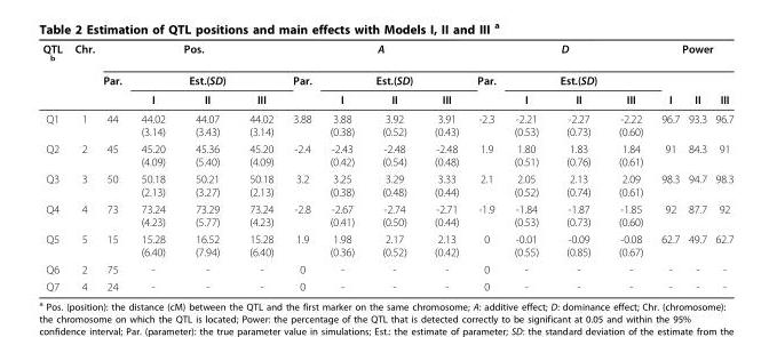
<table><thead><tr><td rowspan="3">QTL <sup>b</sup></td><td rowspan="3">Chr.</td><td colspan="4">Pos.</td><td colspan="4">A</td><td colspan="4">D</td><td colspan="3">Power</td></tr><tr><td rowspan="2">Par.</td><td colspan="3">Est.(SD)</td><td rowspan="2">Par.</td><td colspan="3">Est.(SD)</td><td rowspan="2">Par.</td><td colspan="3">Est.(SD)</td><td rowspan="2">I</td><td rowspan="2">II</td><td rowspan="2">III</td></tr><tr><td>I</td><td>II</td><td>III</td><td>I</td><td>II</td><td>III</td><td>I</td><td>II</td><td>III</td></tr></thead><tbody><tr><td>Q1</td><td>1</td><td>44</td><td>44.02 (3.14)</td><td>44.07 (3.43)</td><td>44.02 (3.14)</td><td>3.88</td><td>3.88 (0.38)</td><td>3.92 (0.52)</td><td>3.91 (0.43)</td><td>-2.3</td><td>-2.21 (0.53)</td><td>-2.27 (0.73)</td><td>-2.22 (0.60)</td><td>96.7</td><td>93.3</td><td>96.7</td></tr><tr><td>Q2</td><td>2</td><td>45</td><td>45.20 (4.09)</td><td>45.36 (5.40)</td><td>45.20 (4.09)</td><td>-2.4</td><td>-2.43 (0.42)</td><td>-2.48 (0.54)</td><td>-2.48 (0.48)</td><td>1.9</td><td>1.80 (0.51)</td><td>1.83 (0.76)</td><td>1.84 (0.61)</td><td>91</td><td>84.3</td><td>91</td></tr><tr><td>Q3</td><td>3</td><td>50</td><td>50.18 (2.13)</td><td>50.21 (3.27)</td><td>50.18 (2.13)</td><td>3.2</td><td>3.25 (0.38)</td><td>3.29 (0.48)</td><td>3.33 (0.44)</td><td>2.1</td><td>2.05 (0.52)</td><td>2.13 (0.74)</td><td>2.09 (0.61)</td><td>98.3</td><td>94.7</td><td>98.3</td></tr><tr><td>Q4</td><td>4</td><td>73</td><td>73.24 (4.23)</td><td>73.29 (5.77)</td><td>73.24 (4.23)</td><td>-2.8</td><td>-2.67 (0.41)</td><td>-2.74 (0.50)</td><td>-2.71 (0.44)</td><td>-1.9</td><td>-1.84 (0.53)</td><td>-1.87 (0.73)</td><td>-1.85 (0.60)</td><td>92</td><td>87.7</td><td>92</td></tr><tr><td>Q5</td><td>5</td><td>15</td><td>15.28 (6.40)</td><td>16.52 (7.94)</td><td>15.28 (6.40)</td><td>1.9</td><td>1.98 (0.36)</td><td>2.17 (0.52)</td><td>2.13 (0.42)</td><td>0</td><td>-0.01 (0.55)</td><td>-0.09 (0.85)</td><td>-0.08 (0.67)</td><td>62.7</td><td>49.7</td><td>62.7</td></tr><tr><td>Q6</td><td>2</td><td>75</td><td>-</td><td>-</td><td>-</td><td>0</td><td>-</td><td>-</td><td>-</td><td>0</td><td>-</td><td>-</td><td>-</td><td>-</td><td>-</td><td>-</td></tr><tr><td>Q7</td><td>4</td><td>24</td><td>-</td><td>-</td><td>-</td><td>0</td><td>-</td><td>-</td><td>-</td><td>0</td><td>-</td><td>-</td><td>-</td><td>-</td><td>-</td><td>-</td></tr></tbody></table>